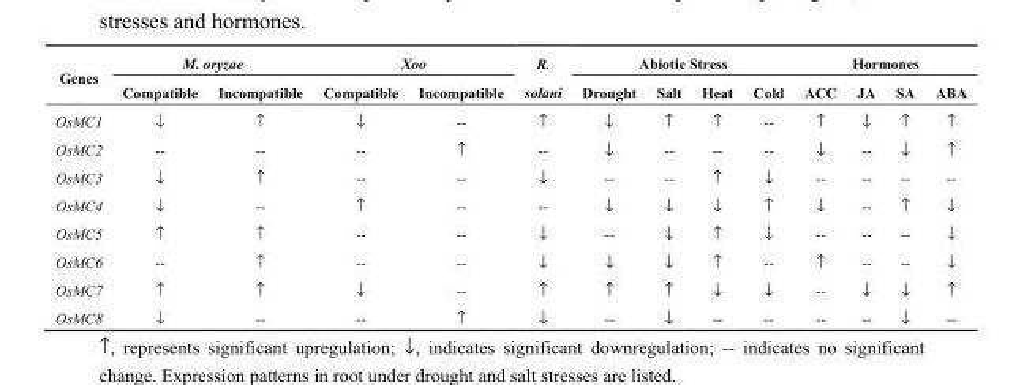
<table><thead><tr><td rowspan="2">Genes</td><td colspan="2">M. oryzae</td><td colspan="2">Xoo</td><td rowspan="2">R. solani</td><td colspan="4">Abiotic Stress</td><td colspan="4">Hormones</td></tr><tr><td>Compatible</td><td>Incompatible</td><td>Compatible</td><td>Incompatible</td><td>Drought</td><td>Salt</td><td>Heat</td><td>Cold</td><td>ACC</td><td>JA</td><td>SA</td><td>ABA</td></tr></thead><tbody><tr><td>OsMC1</td><td>↓</td><td>↑</td><td>↓</td><td>--</td><td>↑</td><td>↓</td><td>↑</td><td>↑</td><td>--</td><td>↑</td><td>↓</td><td>↑</td><td>↑</td></tr><tr><td>OsMC2</td><td>--</td><td>--</td><td>--</td><td>↑</td><td>--</td><td>↓</td><td>--</td><td>--</td><td>--</td><td>↓</td><td>--</td><td>↓</td><td>↑</td></tr><tr><td>OsMC3</td><td>↓</td><td>↑</td><td>--</td><td>--</td><td>↓</td><td>--</td><td>--</td><td>↑</td><td>↓</td><td>--</td><td>--</td><td>--</td><td>--</td></tr><tr><td>OsMC4</td><td>↓</td><td>--</td><td>↑</td><td>--</td><td>--</td><td>↓</td><td>↓</td><td>↓</td><td>↑</td><td>↓</td><td>--</td><td>↑</td><td>↓</td></tr><tr><td>OsMC5</td><td>↑</td><td>↑</td><td>--</td><td>--</td><td>↓</td><td>--</td><td>↓</td><td>↑</td><td>↓</td><td>--</td><td>--</td><td>--</td><td>↓</td></tr><tr><td>OsMC6</td><td>--</td><td>↑</td><td>--</td><td>--</td><td>↓</td><td>↓</td><td>↓</td><td>↑</td><td>--</td><td>↑</td><td>--</td><td>--</td><td>↓</td></tr><tr><td>OsMC7</td><td>↑</td><td>↑</td><td>↓</td><td>--</td><td>↑</td><td>↑</td><td>↑</td><td>↓</td><td>↓</td><td>--</td><td>↓</td><td>↓</td><td>↑</td></tr><tr><td>OsMC8</td><td>↓</td><td>--</td><td>--</td><td>↑</td><td>↓</td><td>--</td><td>↓</td><td>--</td><td>--</td><td>--</td><td>--</td><td>↓</td><td>--</td></tr></tbody></table>